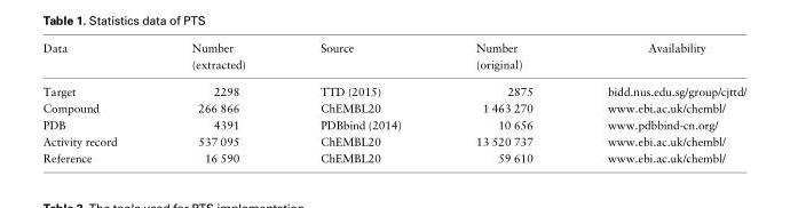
<table><thead><tr><td rowspan="2">Data</td><td rowspan="2">Number (extracted)</td><td rowspan="2">Source</td><td rowspan="2">Number (original)</td><td rowspan="2">Availability</td></tr><tr></tr></thead><tbody><tr><td>Target</td><td>2298</td><td>TTD (2015)</td><td>2875</td><td>bidd.nus.edu.sg/group/cjttd/</td></tr><tr><td>Compound</td><td>266 866</td><td>ChEMBL20</td><td>1 463 270</td><td>www.ebi.ac.uk/chembl/</td></tr><tr><td>PDB</td><td>4391</td><td>PDBbind (2014)</td><td>10 656</td><td>www.pdbbind-cn.org/</td></tr><tr><td>Activity record</td><td>537 095</td><td>ChEMBL20</td><td>13 520 737</td><td>www.ebi.ac.uk/chembl/</td></tr><tr><td>Reference</td><td>16 590</td><td>ChEMBL20</td><td>59 610</td><td>www.ebi.ac.uk/chembl/</td></tr></tbody></table>